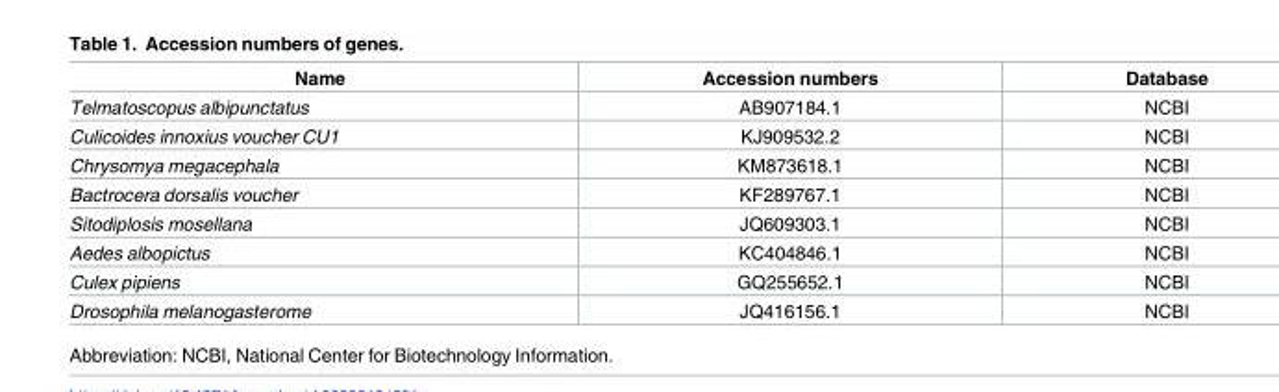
<table><thead><tr><td>Name</td><td>Accession numbers</td><td>Database</td></tr></thead><tbody><tr><td>Telmatoscopus albipunctatus</td><td>AB907184.1</td><td>NCBI</td></tr><tr><td>Culicoides innoxius voucher CU1</td><td>KJ909532.2</td><td>NCBI</td></tr><tr><td>Chrysomya megacephala</td><td>KM873618.1</td><td>NCBI</td></tr><tr><td>Bactrocera dorsalis voucher</td><td>KF289767.1</td><td>NCBI</td></tr><tr><td>Sitodiplosis mosellana</td><td>JQ609303.1</td><td>NCBI</td></tr><tr><td>Aedes albopictus</td><td>KC404846.1</td><td>NCBI</td></tr><tr><td>Culex pipiens</td><td>GQ255652.1</td><td>NCBI</td></tr><tr><td>Drosophila melanogasterome</td><td>JQ416156.1</td><td>NCBI</td></tr></tbody></table>